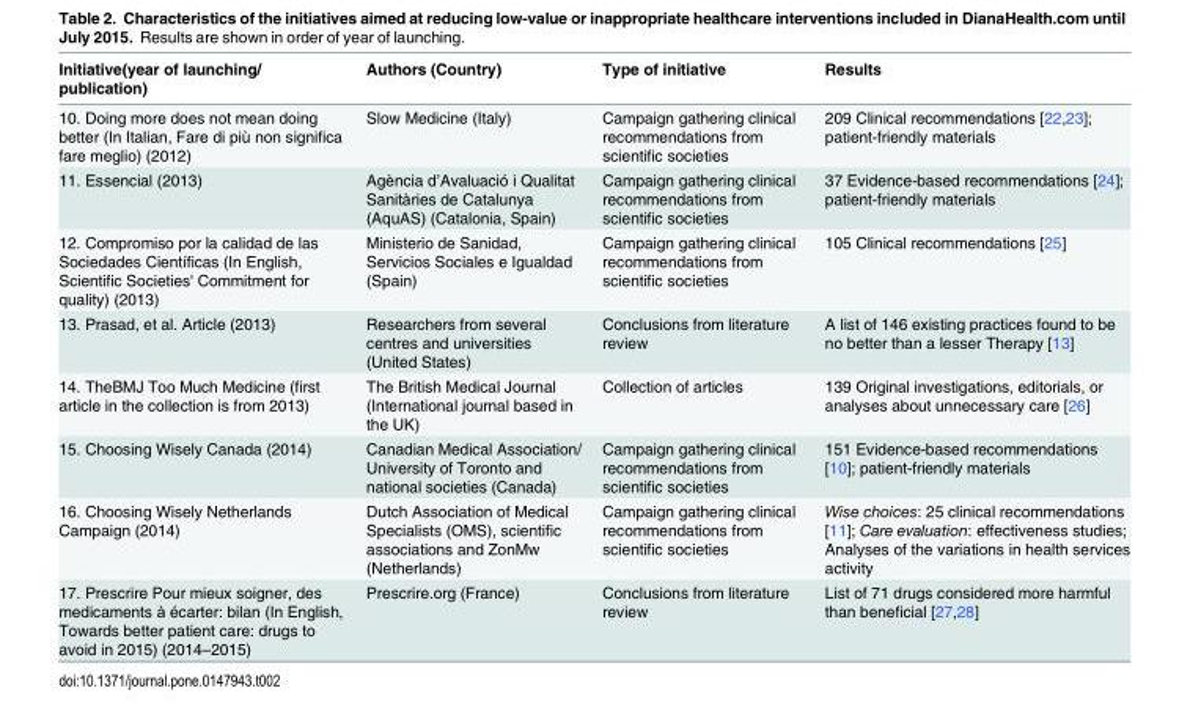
<table><thead><tr><td>Initiative(year of launching/ publication)</td><td>Authors (Country)</td><td>Type of initiative</td><td>Results</td></tr></thead><tbody><tr><td>10. Doing more does not mean doing better (In Italian, Fare di più non significa fare meglio) (2012)</td><td>Slow Medicine (Italy)</td><td>Campaign gathering clinical recommendations from scientific societies</td><td>209 Clinical recommendations [22,23]; patient-friendly materials</td></tr><tr><td>11. Essencial (2013)</td><td>Agència d’Avaluació i Qualitat Sanitàries de Catalunya (AquAS) (Catalonia, Spain)</td><td>Campaign gathering clinical recommendations from scientific societies</td><td>37 Evidence-based recommendations [24]; patient-friendly materials</td></tr><tr><td>12. Compromiso por la calidad de las Sociedades Científicas (In English, Scientific Societies&#x27; Commitment for quality) (2013)</td><td>Ministerio de Sanidad, Servicios Sociales e Igualdad (Spain)</td><td>Campaign gathering clinical recommendations from scientific societies</td><td>105 Clinical recommendations [25]</td></tr><tr><td>13. Prasad, et al. Article (2013)</td><td>Researchers from several centres and universities (United States)</td><td>Conclusions from literature review</td><td>A list of 146 existing practices found to be no better than a lesser Therapy [13]</td></tr><tr><td>14. TheBMJ Too Much Medicine (first article in the collection is from 2013)</td><td>The British Medical Journal (International journal based in the UK)</td><td>Collection of articles</td><td>139 Original investigations, editorials, or analyses about unnecessary care [26]</td></tr><tr><td>15. Choosing Wisely Canada (2014)</td><td>Canadian Medical Association/ University of Toronto and national societies (Canada)</td><td>Campaign gathering clinical recommendations from scientific societies</td><td>151 Evidence-based recommendations [10]; patient-friendly materials</td></tr><tr><td>16. Choosing Wisely Netherlands Campaign (2014)</td><td>Dutch Association of Medical Specialists (OMS), scientific associations and ZonMw (Netherlands)</td><td>Campaign gathering clinical recommendations from scientific societies</td><td>Wise choices: 25 clinical recommendations [11]; Care evaluation: effectiveness studies; Analyses of the variations in health services activity</td></tr><tr><td>17. Prescrire Pour mieux soigner, des medicaments à écarter: bilan (In English, Towards better patient care: drugs to avoid in 2015) (2014–2015)</td><td>Prescrire.org (France)</td><td>Conclusions from literature review</td><td>List of 71 drugs considered more harmful than beneficial [27,28]</td></tr></tbody></table>